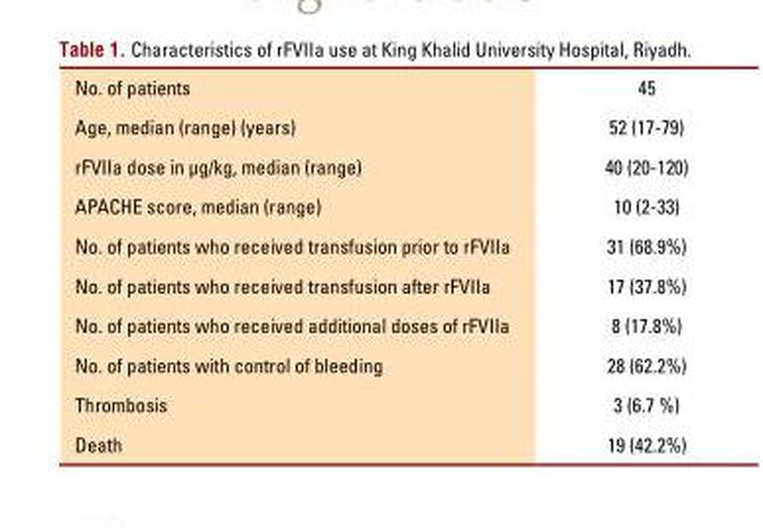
<table><tbody><tr><td>No. of patients</td><td>45</td></tr><tr><td>Age, median (range) (years)</td><td>52 (17-79)</td></tr><tr><td>rFVIIa dose in µg/kg, median (range)</td><td>40 (20-120)</td></tr><tr><td>APACHE score, median (range)</td><td>10 (2-33)</td></tr><tr><td>No. of patients who received transfusion prior to rFVIIa</td><td>31 (68.9%)</td></tr><tr><td>No. of patients who received transfusion after rFVIIa</td><td>17 (37.8%)</td></tr><tr><td>No. of patients who received additional doses of rFVIIa</td><td>8 (17.8%)</td></tr><tr><td>No. of patients with control of bleeding</td><td>28 (62.2%)</td></tr><tr><td>Thrombosis</td><td>3 (6.7 %)</td></tr><tr><td>Death</td><td>19 (42.2%)</td></tr></tbody></table>